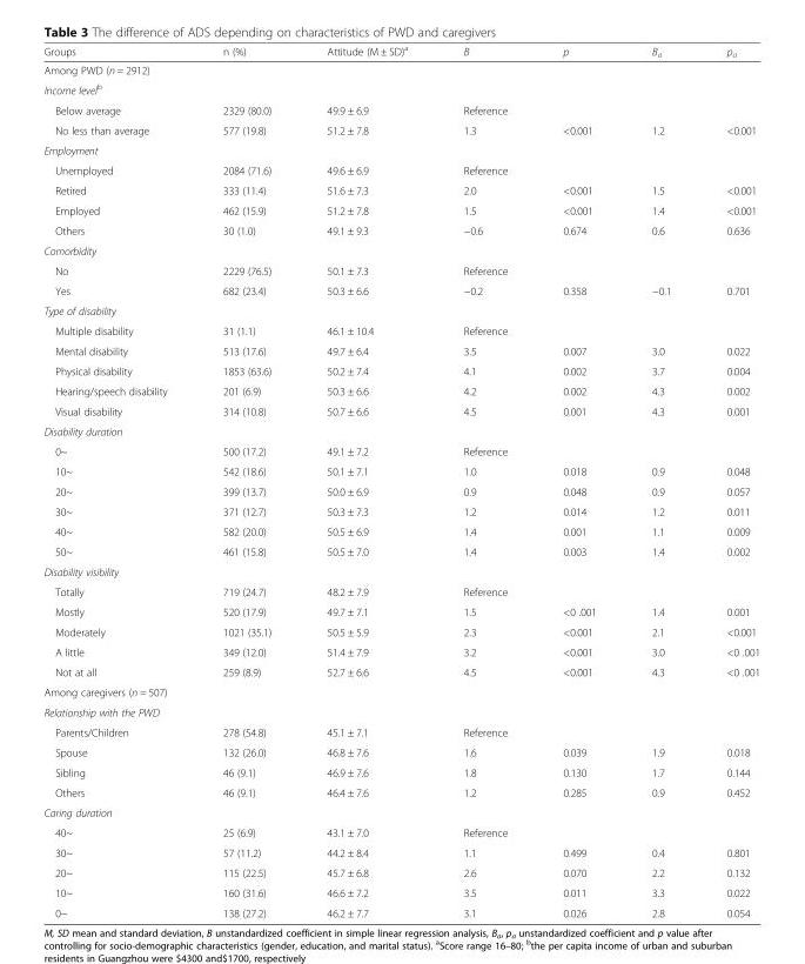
<table><thead><tr><td>Groups</td><td>n (%)</td><td>Attitude (M ± SD)<sup>a</sup></td><td>B</td><td>p</td><td>B<sub>a</sub></td><td>p<sub>a</sub></td></tr></thead><tbody><tr><td colspan="7">Among PWD (n = 2912)</td></tr><tr><td colspan="7">Income level<sup>b</sup></td></tr><tr><td>Below average</td><td>2329 (80.0)</td><td>49.9 ± 6.9</td><td>Reference</td><td></td><td></td><td></td></tr><tr><td>No less than average</td><td>577 (19.8)</td><td>51.2 ± 7.8</td><td>1.3</td><td>&lt;0.001</td><td>1.2</td><td>&lt;0.001</td></tr><tr><td colspan="7">Employment</td></tr><tr><td>Unemployed</td><td>2084 (71.6)</td><td>49.6 ± 6.9</td><td>Reference</td><td></td><td></td><td></td></tr><tr><td>Retired</td><td>333 (11.4)</td><td>51.6 ± 7.3</td><td>2.0</td><td>&lt;0.001</td><td>1.5</td><td>&lt;0.001</td></tr><tr><td>Employed</td><td>462 (15.9)</td><td>51.2 ± 7.8</td><td>1.5</td><td>&lt;0.001</td><td>1.4</td><td>&lt;0.001</td></tr><tr><td>Others</td><td>30 (1.0)</td><td>49.1 ± 9.3</td><td>−0.6</td><td>0.674</td><td>0.6</td><td>0.636</td></tr><tr><td colspan="7">Comorbidity</td></tr><tr><td>No</td><td>2229 (76.5)</td><td>50.1 ± 7.3</td><td>Reference</td><td></td><td></td><td></td></tr><tr><td>Yes</td><td>682 (23.4)</td><td>50.3 ± 6.6</td><td>−0.2</td><td>0.358</td><td>−0.1</td><td>0.701</td></tr><tr><td colspan="7">Type of disability</td></tr><tr><td>Multiple disability</td><td>31 (1.1)</td><td>46.1 ± 10.4</td><td>Reference</td><td></td><td></td><td></td></tr><tr><td>Mental disability</td><td>513 (17.6)</td><td>49.7 ± 6.4</td><td>3.5</td><td>0.007</td><td>3.0</td><td>0.022</td></tr><tr><td>Physical disability</td><td>1853 (63.6)</td><td>50.2 ± 7.4</td><td>4.1</td><td>0.002</td><td>3.7</td><td>0.004</td></tr><tr><td>Hearing/speech disability</td><td>201 (6.9)</td><td>50.3 ± 6.6</td><td>4.2</td><td>0.002</td><td>4.3</td><td>0.002</td></tr><tr><td>Visual disability</td><td>314 (10.8)</td><td>50.7 ± 6.6</td><td>4.5</td><td>0.001</td><td>4.3</td><td>0.001</td></tr><tr><td colspan="7">Disability duration</td></tr><tr><td>0~</td><td>500 (17.2)</td><td>49.1 ± 7.2</td><td>Reference</td><td></td><td></td><td></td></tr><tr><td>10~</td><td>542 (18.6)</td><td>50.1 ± 7.1</td><td>1.0</td><td>0.018</td><td>0.9</td><td>0.048</td></tr><tr><td>20~</td><td>399 (13.7)</td><td>50.0 ± 6.9</td><td>0.9</td><td>0.048</td><td>0.9</td><td>0.057</td></tr><tr><td>30~</td><td>371 (12.7)</td><td>50.3 ± 7.3</td><td>1.2</td><td>0.014</td><td>1.2</td><td>0.011</td></tr><tr><td>40~</td><td>582 (20.0)</td><td>50.5 ± 6.9</td><td>1.4</td><td>0.001</td><td>1.1</td><td>0.009</td></tr><tr><td>50~</td><td>461 (15.8)</td><td>50.5 ± 7.0</td><td>1.4</td><td>0.003</td><td>1.4</td><td>0.002</td></tr><tr><td colspan="7">Disability visibility</td></tr><tr><td>Totally</td><td>719 (24.7)</td><td>48.2 ± 7.9</td><td>Reference</td><td></td><td></td><td></td></tr><tr><td>Mostly</td><td>520 (17.9)</td><td>49.7 ± 7.1</td><td>1.5</td><td>&lt;0 .001</td><td>1.4</td><td>0.001</td></tr><tr><td>Moderately</td><td>1021 (35.1)</td><td>50.5 ± 5.9</td><td>2.3</td><td>&lt;0.001</td><td>2.1</td><td>&lt;0.001</td></tr><tr><td>A little</td><td>349 (12.0)</td><td>51.4 ± 7.9</td><td>3.2</td><td>&lt;0.001</td><td>3.0</td><td>&lt;0 .001</td></tr><tr><td>Not at all</td><td>259 (8.9)</td><td>52.7 ± 6.6</td><td>4.5</td><td>&lt;0.001</td><td>4.3</td><td>&lt;0 .001</td></tr><tr><td colspan="7">Among caregivers (n = 507)</td></tr><tr><td colspan="7">Relationship with the PWD</td></tr><tr><td>Parents/Children</td><td>278 (54.8)</td><td>45.1 ± 7.1</td><td>Reference</td><td></td><td></td><td></td></tr><tr><td>Spouse</td><td>132 (26.0)</td><td>46.8 ± 7.6</td><td>1.6</td><td>0.039</td><td>1.9</td><td>0.018</td></tr><tr><td>Sibling</td><td>46 (9.1)</td><td>46.9 ± 7.6</td><td>1.8</td><td>0.130</td><td>1.7</td><td>0.144</td></tr><tr><td>Others</td><td>46 (9.1)</td><td>46.4 ± 7.6</td><td>1.2</td><td>0.285</td><td>0.9</td><td>0.452</td></tr><tr><td colspan="7">Caring duration</td></tr><tr><td>40~</td><td>25 (6.9)</td><td>43.1 ± 7.0</td><td>Reference</td><td></td><td></td><td></td></tr><tr><td>30~</td><td>57 (11.2)</td><td>44.2 ± 8.4</td><td>1.1</td><td>0.499</td><td>0.4</td><td>0.801</td></tr><tr><td>20~</td><td>115 (22.5)</td><td>45.7 ± 6.8</td><td>2.6</td><td>0.070</td><td>2.2</td><td>0.132</td></tr><tr><td>10~</td><td>160 (31.6)</td><td>46.6 ± 7.2</td><td>3.5</td><td>0.011</td><td>3.3</td><td>0.022</td></tr><tr><td>0~</td><td>138 (27.2)</td><td>46.2 ± 7.7</td><td>3.1</td><td>0.026</td><td>2.8</td><td>0.054</td></tr></tbody></table>